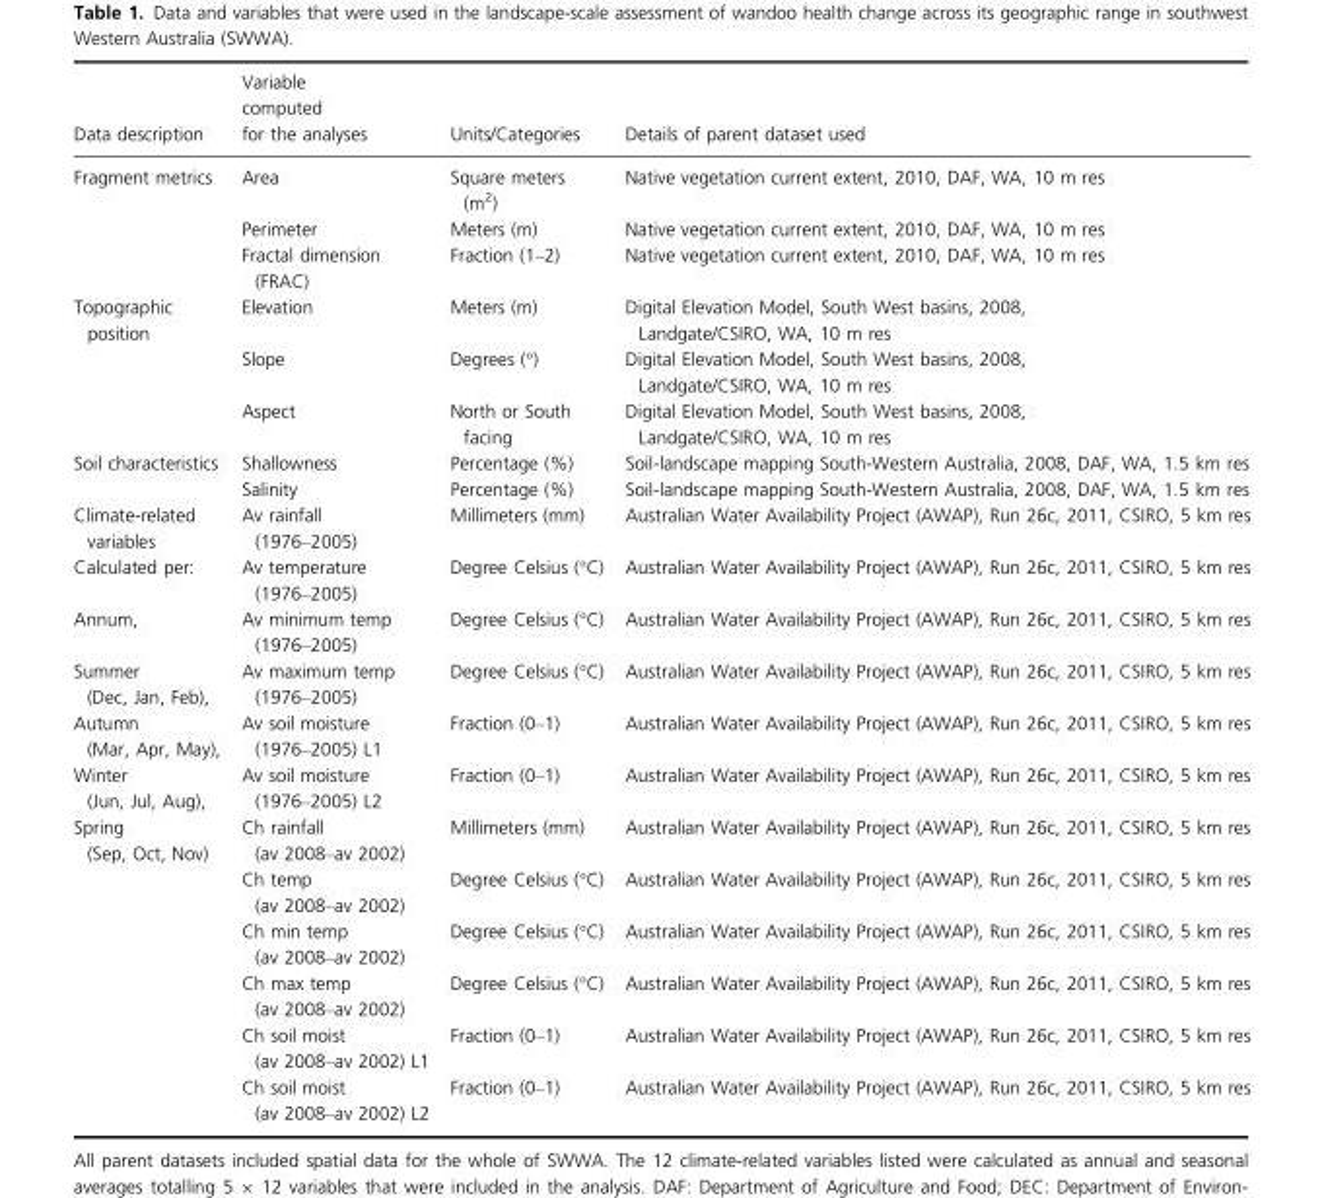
<table><thead><tr><td>Data description</td><td>Variable computed for the analyses</td><td>Units/Categories</td><td>Details of parent dataset used</td></tr></thead><tbody><tr><td rowspan="3">Fragment metrics</td><td>Area</td><td>Square meters (m<sup>2</sup>)</td><td>Native vegetation current extent, 2010, DAF, WA, 10 m res</td></tr><tr><td>Perimeter</td><td>Meters (m)</td><td>Native vegetation current extent, 2010, DAF, WA, 10 m res</td></tr><tr><td>Fractal dimension (FRAC)</td><td>Fraction (1–2)</td><td>Native vegetation current extent, 2010, DAF, WA, 10 m res</td></tr><tr><td rowspan="3">Topographic position</td><td>Elevation</td><td>Meters (m)</td><td>Digital Elevation Model, South West basins, 2008, Landgate/CSIRO, WA, 10 m res</td></tr><tr><td>Slope</td><td>Degrees (°)</td><td>Digital Elevation Model, South West basins, 2008, Landgate/CSIRO, WA, 10 m res</td></tr><tr><td>Aspect</td><td>North or South facing</td><td>Digital Elevation Model, South West basins, 2008, Landgate/CSIRO, WA, 10 m res</td></tr><tr><td rowspan="2">Soil characteristics</td><td>Shallowness</td><td>Percentage (%)</td><td>Soil-landscape mapping South-Western Australia, 2008, DAF, WA, 1.5 km res</td></tr><tr><td>Salinity</td><td>Percentage (%)</td><td>Soil-landscape mapping South-Western Australia, 2008, DAF, WA, 1.5 km res</td></tr><tr><td>Climate-related variables</td><td>Av rainfall (1976–2005)</td><td>Millimeters (mm)</td><td>Australian Water Availability Project (AWAP), Run 26c, 2011, CSIRO, 5 km res</td></tr><tr><td>Calculated per:</td><td>Av temperature (1976–2005)</td><td>Degree Celsius (°C)</td><td>Australian Water Availability Project (AWAP), Run 26c, 2011, CSIRO, 5 km res</td></tr><tr><td>Annum,</td><td>Av minimum temp (1976–2005)</td><td>Degree Celsius (°C)</td><td>Australian Water Availability Project (AWAP), Run 26c, 2011, CSIRO, 5 km res</td></tr><tr><td>Summer (Dec, Jan, Feb),</td><td>Av maximum temp (1976–2005)</td><td>Degree Celsius (°C)</td><td>Australian Water Availability Project (AWAP), Run 26c, 2011, CSIRO, 5 km res</td></tr><tr><td>Autumn (Mar, Apr, May),</td><td>Av soil moisture (1976–2005) L1</td><td>Fraction (0–1)</td><td>Australian Water Availability Project (AWAP), Run 26c, 2011, CSIRO, 5 km res</td></tr><tr><td>Winter (Jun, Jul, Aug),</td><td>Av soil moisture (1976–2005) L2</td><td>Fraction (0–1)</td><td>Australian Water Availability Project (AWAP), Run 26c, 2011, CSIRO, 5 km res</td></tr><tr><td rowspan="6">Spring (Sep, Oct, Nov)</td><td>Ch rainfall (av 2008–av 2002)</td><td>Millimeters (mm)</td><td>Australian Water Availability Project (AWAP), Run 26c, 2011, CSIRO, 5 km res</td></tr><tr><td>Ch temp (av 2008–av 2002)</td><td>Degree Celsius (°C)</td><td>Australian Water Availability Project (AWAP), Run 26c, 2011, CSIRO, 5 km res</td></tr><tr><td>Ch min temp (av 2008–av 2002)</td><td>Degree Celsius (°C)</td><td>Australian Water Availability Project (AWAP), Run 26c, 2011, CSIRO, 5 km res</td></tr><tr><td>Ch max temp (av 2008–av 2002)</td><td>Degree Celsius (°C)</td><td>Australian Water Availability Project (AWAP), Run 26c, 2011, CSIRO, 5 km res</td></tr><tr><td>Ch soil moist (av 2008–av 2002) L1</td><td>Fraction (0–1)</td><td>Australian Water Availability Project (AWAP), Run 26c, 2011, CSIRO, 5 km res</td></tr><tr><td>Ch soil moist (av 2008–av 2002) L2</td><td>Fraction (0–1)</td><td>Australian Water Availability Project (AWAP), Run 26c, 2011, CSIRO, 5 km res</td></tr></tbody></table>